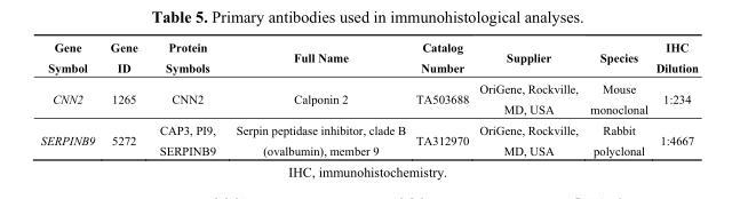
<table><thead><tr><td>Gene Symbol</td><td>Gene ID</td><td>Protein Symbols</td><td>Full Name</td><td>Catalog Number</td><td>Supplier</td><td>Species</td><td>IHC Dilution</td></tr></thead><tbody><tr><td>CNN2</td><td>1265</td><td>CNN2</td><td>Calponin 2</td><td>TA503688</td><td>OriGene, Rockville, MD, USA</td><td>Mouse monoclonal</td><td>1:234</td></tr><tr><td>SERPINB9</td><td>5272</td><td>CAP3, PI9, SERPINB9</td><td>Serpin peptidase inhibitor, clade B (ovalbumin), member 9</td><td>TA312970</td><td>OriGene, Rockville, MD, USA</td><td>Rabbit polyclonal</td><td>1:4667</td></tr></tbody></table>